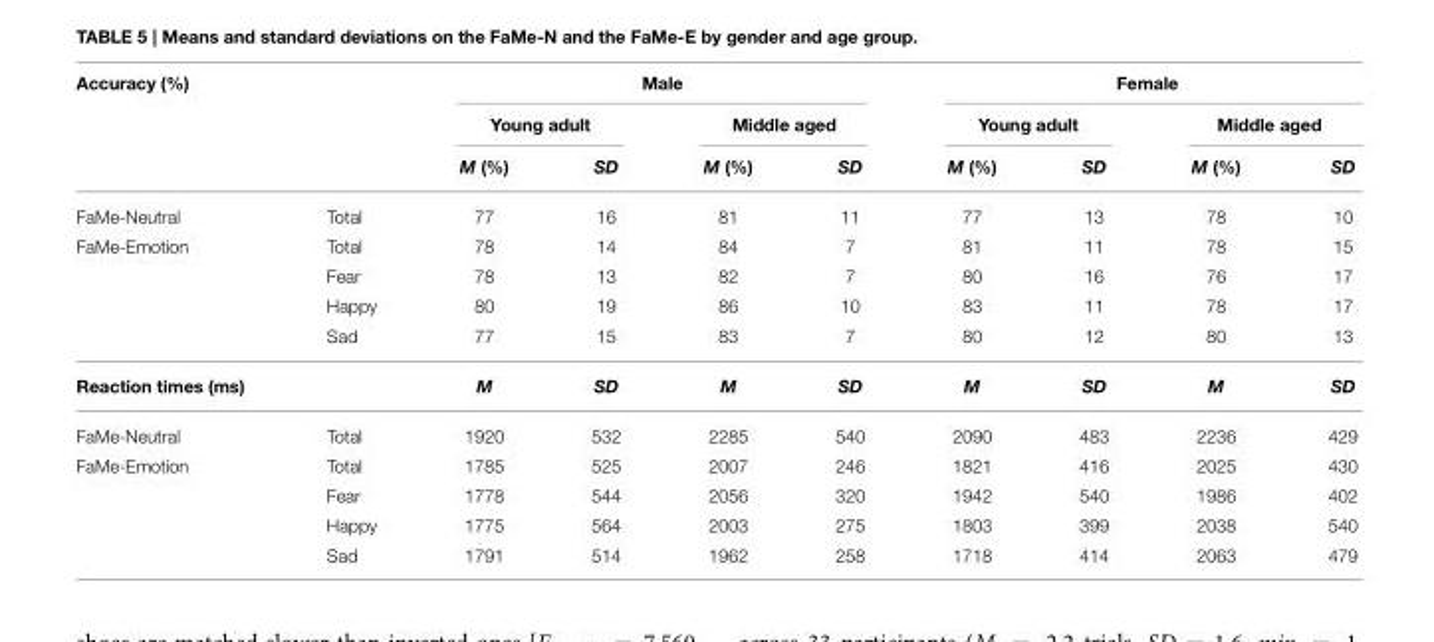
<table><thead><tr><td rowspan="3">Accuracy (%)</td><td rowspan="3"></td><td colspan="4">Male</td><td colspan="4">Female</td></tr><tr><td colspan="2">Young adult</td><td colspan="2">Middle aged</td><td colspan="2">Young adult</td><td colspan="2">Middle aged</td></tr><tr><td>M (%)</td><td>SD</td><td>M (%)</td><td>SD</td><td>M (%)</td><td>SD</td><td>M (%)</td><td>SD</td></tr></thead><tbody><tr><td>FaMe-Neutral</td><td>Total</td><td>77</td><td>16</td><td>81</td><td>11</td><td>77</td><td>13</td><td>78</td><td>10</td></tr><tr><td rowspan="4">FaMe-Emotion</td><td>Total</td><td>78</td><td>14</td><td>84</td><td>7</td><td>81</td><td>11</td><td>78</td><td>15</td></tr><tr><td>Fear</td><td>78</td><td>13</td><td>82</td><td>7</td><td>80</td><td>16</td><td>76</td><td>17</td></tr><tr><td>Happy</td><td>80</td><td>19</td><td>86</td><td>10</td><td>83</td><td>11</td><td>78</td><td>17</td></tr><tr><td>Sad</td><td>77</td><td>15</td><td>83</td><td>7</td><td>80</td><td>12</td><td>80</td><td>13</td></tr><tr><td>Reaction times (ms)</td><td></td><td>M</td><td>SD</td><td>M</td><td>SD</td><td>M</td><td>SD</td><td>M</td><td>SD</td></tr><tr><td>FaMe-Neutral</td><td>Total</td><td>1920</td><td>532</td><td>2285</td><td>540</td><td>2090</td><td>483</td><td>2236</td><td>429</td></tr><tr><td rowspan="4">FaMe-Emotion</td><td>Total</td><td>1785</td><td>525</td><td>2007</td><td>246</td><td>1821</td><td>416</td><td>2025</td><td>430</td></tr><tr><td>Fear</td><td>1778</td><td>544</td><td>2056</td><td>320</td><td>1942</td><td>540</td><td>1986</td><td>402</td></tr><tr><td>Happy</td><td>1775</td><td>564</td><td>2003</td><td>275</td><td>1803</td><td>399</td><td>2038</td><td>540</td></tr><tr><td>Sad</td><td>1791</td><td>514</td><td>1962</td><td>258</td><td>1718</td><td>414</td><td>2063</td><td>479</td></tr></tbody></table>